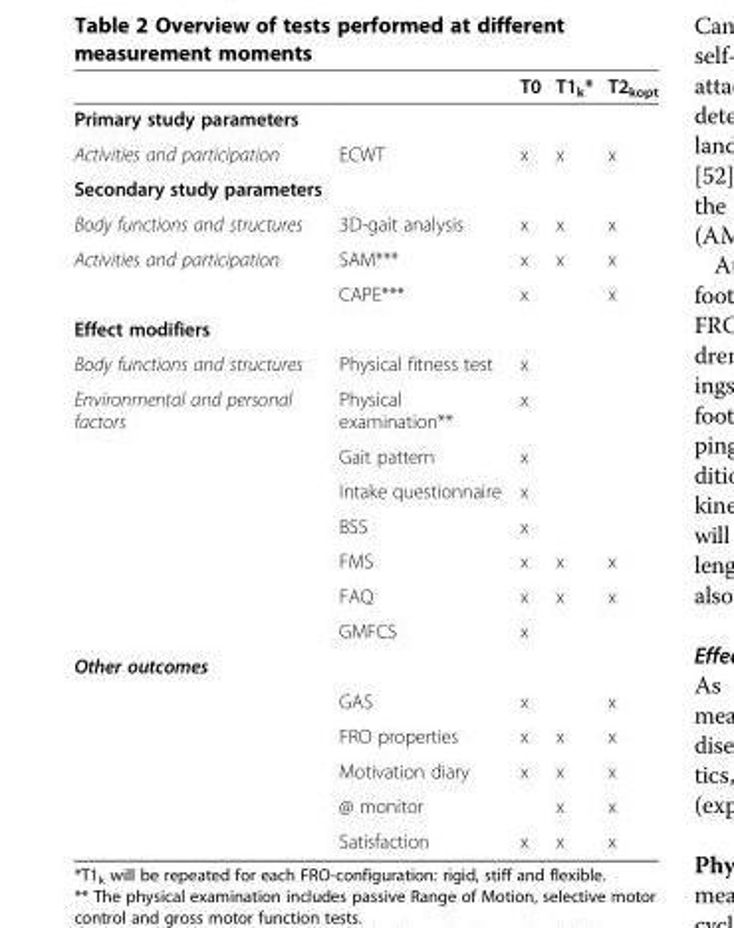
<table><thead><tr><td></td><td></td><td>T0</td><td>T1<sub>k</sub>*</td><td>T2<sub>kopt</sub></td></tr></thead><tbody><tr><td colspan="5">Primary study parameters</td></tr><tr><td>Activities and participation</td><td>ECWT</td><td>x</td><td>x</td><td>x</td></tr><tr><td colspan="5">Secondary study parameters</td></tr><tr><td>Body functions and structures</td><td>3D-gait analysis</td><td>x</td><td>x</td><td>x</td></tr><tr><td rowspan="2">Activities and participation</td><td>SAM***</td><td>x</td><td>x</td><td>x</td></tr><tr><td>CAPE***</td><td>x</td><td></td><td>x</td></tr><tr><td colspan="5">Effect modifiers</td></tr><tr><td>Body functions and structures</td><td>Physical fitness test</td><td>x</td><td></td><td></td></tr><tr><td rowspan="7">Environmental and personal factors</td><td>Physical examination**</td><td>x</td><td></td><td></td></tr><tr><td>Gait pattern</td><td>x</td><td></td><td></td></tr><tr><td>Intake questionnaire</td><td>x</td><td></td><td></td></tr><tr><td>BSS</td><td>x</td><td></td><td></td></tr><tr><td>FMS</td><td>x</td><td>x</td><td>x</td></tr><tr><td>FAQ</td><td>x</td><td>x</td><td>x</td></tr><tr><td>GMFCS</td><td>x</td><td></td><td></td></tr><tr><td colspan="5">Other outcomes</td></tr><tr><td></td><td>GAS</td><td>x</td><td></td><td>x</td></tr><tr><td></td><td>FRO properties</td><td>x</td><td>x</td><td>x</td></tr><tr><td></td><td>Motivation diary</td><td>x</td><td>x</td><td>x</td></tr><tr><td></td><td>@ monitor</td><td></td><td>x</td><td>x</td></tr><tr><td></td><td>Satisfaction</td><td>x</td><td>x</td><td>x</td></tr></tbody></table>